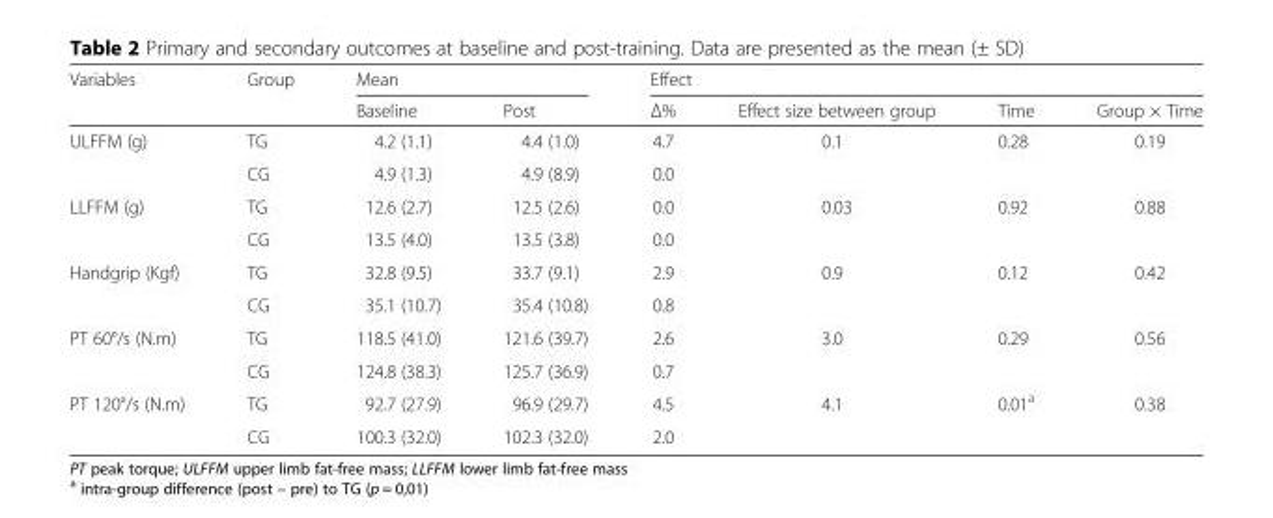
<table><thead><tr><td rowspan="2">Variables</td><td rowspan="2">Group</td><td colspan="2">Mean</td><td colspan="4">Effect</td></tr><tr><td>Baseline</td><td>Post</td><td>Δ%</td><td>Effect size between group</td><td>Time</td><td>Group × Time</td></tr></thead><tbody><tr><td rowspan="2">ULFFM (g)</td><td>TG</td><td>4.2 (1.1)</td><td>4.4 (1.0)</td><td>4.7</td><td rowspan="2">0.1</td><td rowspan="2">0.28</td><td rowspan="2">0.19</td></tr><tr><td>CG</td><td>4.9 (1.3)</td><td>4.9 (8.9)</td><td>0.0</td></tr><tr><td rowspan="2">LLFFM (g)</td><td>TG</td><td>12.6 (2.7)</td><td>12.5 (2.6)</td><td>0.0</td><td rowspan="2">0.03</td><td rowspan="2">0.92</td><td rowspan="2">0.88</td></tr><tr><td>CG</td><td>13.5 (4.0)</td><td>13.5 (3.8)</td><td>0.0</td></tr><tr><td rowspan="2">Handgrip (Kgf)</td><td>TG</td><td>32.8 (9.5)</td><td>33.7 (9.1)</td><td>2.9</td><td rowspan="2">0.9</td><td rowspan="2">0.12</td><td rowspan="2">0.42</td></tr><tr><td>CG</td><td>35.1 (10.7)</td><td>35.4 (10.8)</td><td>0.8</td></tr><tr><td rowspan="2">PT 60°/s (N.m)</td><td>TG</td><td>118.5 (41.0)</td><td>121.6 (39.7)</td><td>2.6</td><td rowspan="2">3.0</td><td rowspan="2">0.29</td><td rowspan="2">0.56</td></tr><tr><td>CG</td><td>124.8 (38.3)</td><td>125.7 (36.9)</td><td>0.7</td></tr><tr><td rowspan="2">PT 120°/s (N.m)</td><td>TG</td><td>92.7 (27.9)</td><td>96.9 (29.7)</td><td>4.5</td><td rowspan="2">4.1</td><td rowspan="2">0.01<sup>a</sup></td><td rowspan="2">0.38</td></tr><tr><td>CG</td><td>100.3 (32.0)</td><td>102.3 (32.0)</td><td>2.0</td></tr></tbody></table>